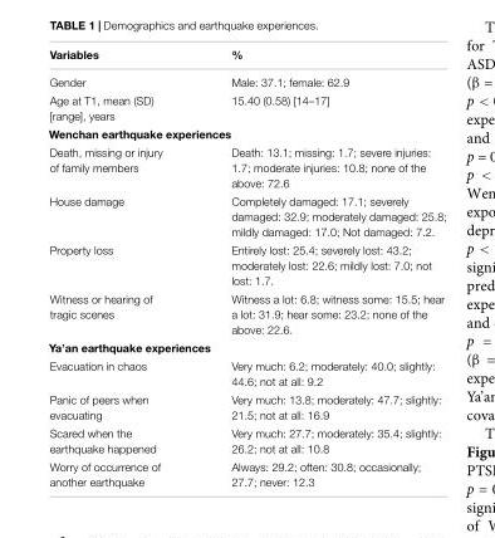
<table><thead><tr><td>Variables</td><td>%</td></tr></thead><tbody><tr><td>Gender</td><td>Male: 37.1; female: 62.9</td></tr><tr><td>Age at T1, mean (SD) [range], years</td><td>15.40 (0.58) [14–17]</td></tr><tr><td colspan="2">Wenchan earthquake experiences</td></tr><tr><td>Death, missing or injury of family members</td><td>Death: 13.1; missing: 1.7; severe injuries: 1.7; moderate injuries: 10.8; none of the above: 72.6</td></tr><tr><td>House damage</td><td>Completely damaged: 17.1; severely damaged: 32.9; moderately damaged: 25.8; mildly damaged: 17.0; Not damaged: 7.2.</td></tr><tr><td>Property loss</td><td>Entirely lost: 25.4; severely lost: 43.2; moderately lost: 22.6; mildly lost: 7.0; not lost: 1.7.</td></tr><tr><td>Witness or hearing of tragic scenes</td><td>Witness a lot: 6.8; witness some: 15.5; hear a lot: 31.9; hear some: 23.2; none of the above: 22.6.</td></tr><tr><td colspan="2">Ya’an earthquake experiences</td></tr><tr><td>Evacuation in chaos</td><td>Very much: 6.2; moderately: 40.0; slightly: 44.6; not at all: 9.2</td></tr><tr><td>Panic of peers when evacuating</td><td>Very much: 13.8; moderately: 47.7; slightly: 21.5; not at all: 16.9</td></tr><tr><td>Scared when the earthquake happened</td><td>Very much: 27.7; moderately: 35.4; slightly: 26.2; not at all: 10.8</td></tr><tr><td>Worry of occurrence of another earthquake</td><td>Always: 29.2; often: 30.8; occasionally; 27.7; never: 12.3</td></tr></tbody></table>